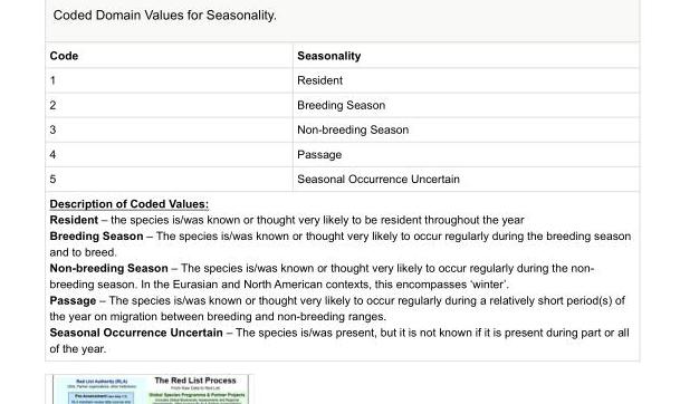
<table><tbody><tr><td>Code</td><td>Seasonality</td></tr><tr><td>1</td><td>Resident</td></tr><tr><td>2</td><td>Breeding Season</td></tr><tr><td>3</td><td>Non-breeding Season</td></tr><tr><td>4</td><td>Passage</td></tr><tr><td>5</td><td>Seasonal Occurrence Uncertain</td></tr><tr><td colspan="2">Description of Coded Values: Resident – the species is/was known or thought very likely to be resident throughout the year Breeding Season – The species is/was known or thought very likely to occur regularly during the breeding season and to breed. Non-breeding Season – The species is/was known or thought very likely to occur regularly during the non- breeding season. In the Eurasian and North American contexts, this encompasses ‘winter’. Passage – The species is/was known or thought very likely to occur regularly during a relatively short period(s) of the year on migration between breeding and non-breeding ranges. Seasonal Occurrence Uncertain – The species is/was present, but it is not known if it is present during part or all of the year.</td></tr></tbody></table>